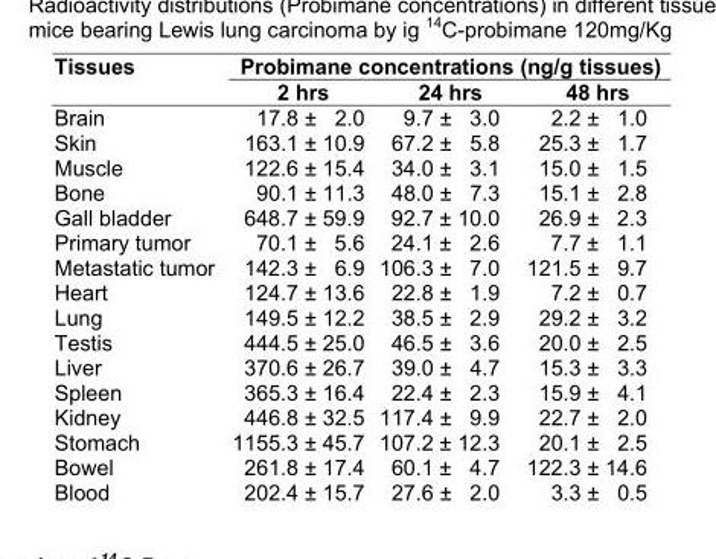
<table><thead><tr><td rowspan="2">Tissues</td><td colspan="3">Probimane concentrations (ng/g tissues)</td></tr><tr><td>2 hrs</td><td>24 hrs</td><td>48 hrs</td></tr></thead><tbody><tr><td>Brain</td><td>17.8 ± 2.0</td><td>9.7 ± 3.0</td><td>2.2 ± 1.0</td></tr><tr><td>Skin</td><td>163.1 ± 10.9</td><td>67.2 ± 5.8</td><td>25.3 ± 1.7</td></tr><tr><td>Muscle</td><td>122.6 ± 15.4</td><td>34.0 ± 3.1</td><td>15.0 ± 1.5</td></tr><tr><td>Bone</td><td>90.1 ± 11.3</td><td>48.0 ± 7.3</td><td>15.1 ± 2.8</td></tr><tr><td>Gall bladder</td><td>648.7 ± 59.9</td><td>92.7 ± 10.0</td><td>26.9 ± 2.3</td></tr><tr><td>Primary tumor</td><td>70.1 ± 5.6</td><td>24.1 ± 2.6</td><td>7.7 ± 1.1</td></tr><tr><td>Metastatic tumor</td><td>142.3 ± 6.9</td><td>106.3 ± 7.0</td><td>121.5 ± 9.7</td></tr><tr><td>Heart</td><td>124.7 ± 13.6</td><td>22.8 ± 1.9</td><td>7.2 ± 0.7</td></tr><tr><td>Lung</td><td>149.5 ± 12.2</td><td>38.5 ± 2.9</td><td>29.2 ± 3.2</td></tr><tr><td>Testis</td><td>444.5 ± 25.0</td><td>46.5 ± 3.6</td><td>20.0 ± 2.5</td></tr><tr><td>Liver</td><td>370.6 ± 26.7</td><td>39.0 ± 4.7</td><td>15.3 ± 3.3</td></tr><tr><td>Spleen</td><td>365.3 ± 16.4</td><td>22.4 ± 2.3</td><td>15.9 ± 4.1</td></tr><tr><td>Kidney</td><td>446.8 ± 32.5</td><td>117.4 ± 9.9</td><td>22.7 ± 2.0</td></tr><tr><td>Stomach</td><td>1155.3 ± 45.7</td><td>107.2 ± 12.3</td><td>20.1 ± 2.5</td></tr><tr><td>Bowel</td><td>261.8 ± 17.4</td><td>60.1 ± 4.7</td><td>122.3 ± 14.6</td></tr><tr><td>Blood</td><td>202.4 ± 15.7</td><td>27.6 ± 2.0</td><td>3.3 ± 0.5</td></tr></tbody></table>